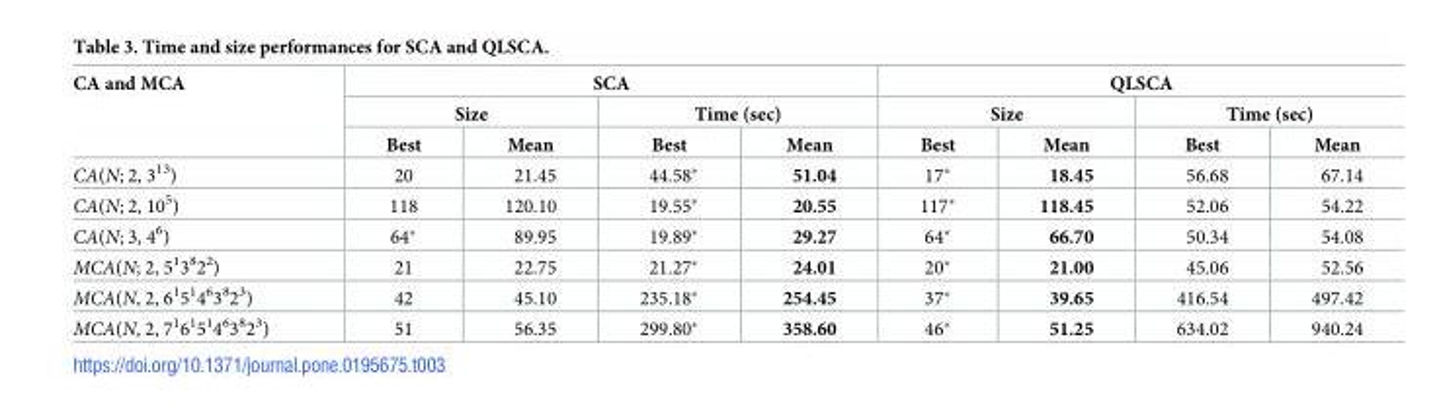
<table><thead><tr><td rowspan="3">CA and MCA</td><td colspan="4">SCA</td><td colspan="4">QLSCA</td></tr><tr><td colspan="2">Size</td><td colspan="2">Time (sec)</td><td colspan="2">Size</td><td colspan="2">Time (sec)</td></tr><tr><td>Best</td><td>Mean</td><td>Best</td><td>Mean</td><td>Best</td><td>Mean</td><td>Best</td><td>Mean</td></tr></thead><tbody><tr><td>CA(N; 2, 3<sup>13</sup>)</td><td>20</td><td>21.45</td><td>44.58*</td><td>51.04</td><td>17*</td><td>18.45</td><td>56.68</td><td>67.14</td></tr><tr><td>CA(N; 2, 10<sup>5</sup>)</td><td>118</td><td>120.10</td><td>19.55*</td><td>20.55</td><td>117*</td><td>118.45</td><td>52.06</td><td>54.22</td></tr><tr><td>CA(N; 3, 4<sup>6</sup>)</td><td>64*</td><td>89.95</td><td>19.89*</td><td>29.27</td><td>64*</td><td>66.70</td><td>50.34</td><td>54.08</td></tr><tr><td>MCA(N; 2, 5<sup>1</sup>3<sup>8</sup>2<sup>2</sup>)</td><td>21</td><td>22.75</td><td>21.27*</td><td>24.01</td><td>20*</td><td>21.00</td><td>45.06</td><td>52.56</td></tr><tr><td>MCA(N, 2, 6<sup>1</sup>5<sup>1</sup>4<sup>6</sup>3<sup>8</sup>2<sup>3</sup>)</td><td>42</td><td>45.10</td><td>235.18*</td><td>254.45</td><td>37*</td><td>39.65</td><td>416.54</td><td>497.42</td></tr><tr><td>MCA(N, 2, 7<sup>1</sup>6<sup>1</sup>5<sup>1</sup>4<sup>6</sup>3<sup>8</sup>2<sup>3</sup>)</td><td>51</td><td>56.35</td><td>299.80*</td><td>358.60</td><td>46*</td><td>51.25</td><td>634.02</td><td>940.24</td></tr></tbody></table>